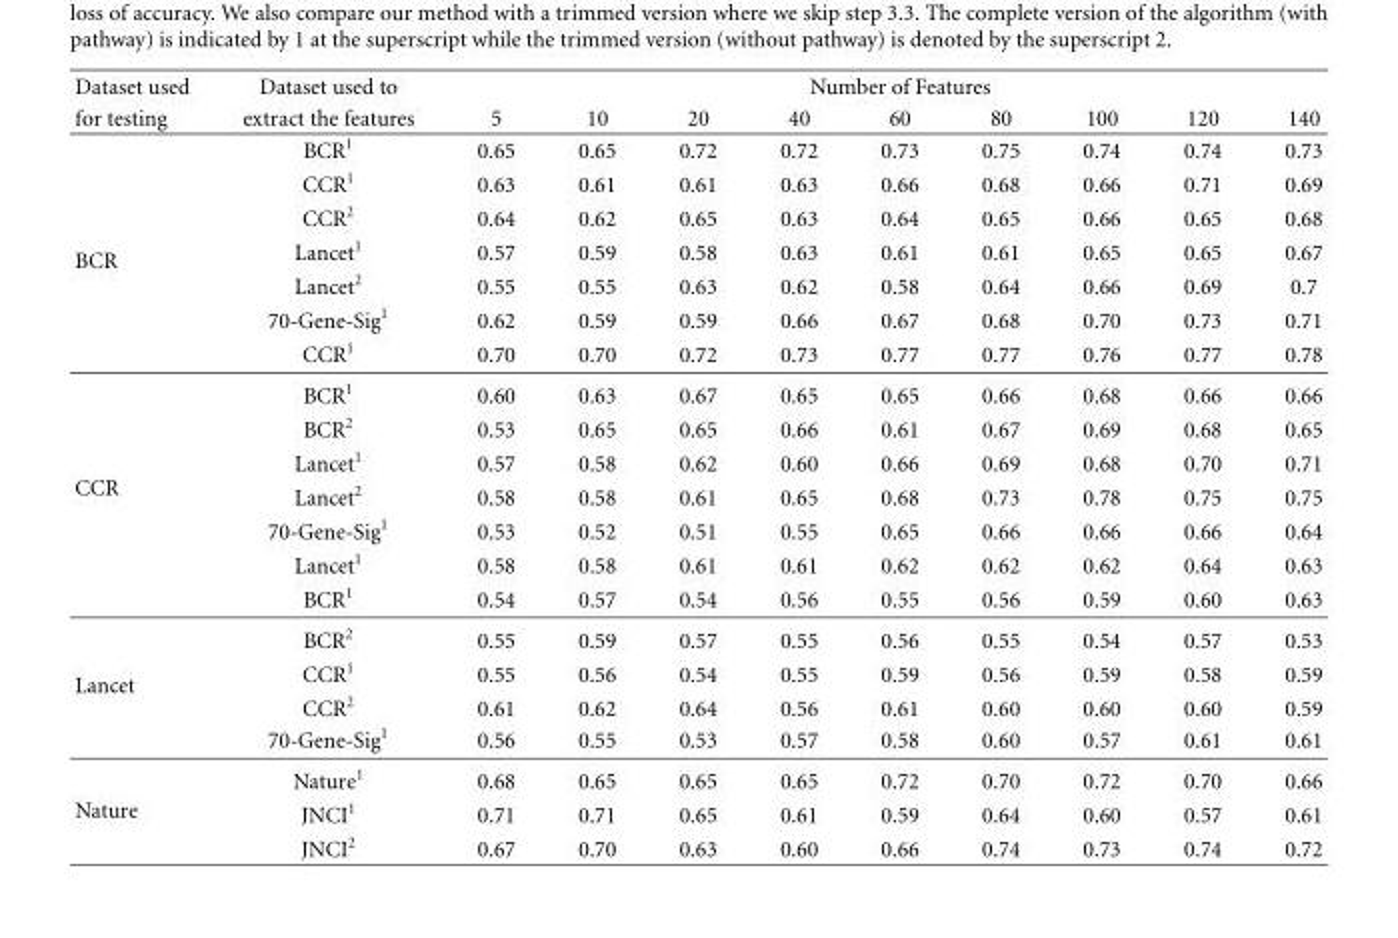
<table><thead><tr><td rowspan="2">Dataset used for testing</td><td rowspan="2">Dataset used to extract the features</td><td colspan="9">Number of Features</td></tr><tr><td>5</td><td>10</td><td>20</td><td>40</td><td>60</td><td>80</td><td>100</td><td>120</td><td>140</td></tr></thead><tbody><tr><td></td><td>BCR<sup>1</sup></td><td>0.65</td><td>0.65</td><td>0.72</td><td>0.72</td><td>0.73</td><td>0.75</td><td>0.74</td><td>0.74</td><td>0.73</td></tr><tr><td rowspan="6">BCR</td><td>CCR<sup>1</sup></td><td>0.63</td><td>0.61</td><td>0.61</td><td>0.63</td><td>0.66</td><td>0.68</td><td>0.66</td><td>0.71</td><td>0.69</td></tr><tr><td>CCR<sup>2</sup></td><td>0.64</td><td>0.62</td><td>0.65</td><td>0.63</td><td>0.64</td><td>0.65</td><td>0.66</td><td>0.65</td><td>0.68</td></tr><tr><td>Lancet<sup>1</sup></td><td>0.57</td><td>0.59</td><td>0.58</td><td>0.63</td><td>0.61</td><td>0.61</td><td>0.65</td><td>0.65</td><td>0.67</td></tr><tr><td>Lancet<sup>2</sup></td><td>0.55</td><td>0.55</td><td>0.63</td><td>0.62</td><td>0.58</td><td>0.64</td><td>0.66</td><td>0.69</td><td>0.7</td></tr><tr><td>70-Gene-Sig<sup>1</sup></td><td>0.62</td><td>0.59</td><td>0.59</td><td>0.66</td><td>0.67</td><td>0.68</td><td>0.70</td><td>0.73</td><td>0.71</td></tr><tr><td>CCR<sup>1</sup></td><td>0.70</td><td>0.70</td><td>0.72</td><td>0.73</td><td>0.77</td><td>0.77</td><td>0.76</td><td>0.77</td><td>0.78</td></tr><tr><td rowspan="7">CCR</td><td>BCR<sup>1</sup></td><td>0.60</td><td>0.63</td><td>0.67</td><td>0.65</td><td>0.65</td><td>0.66</td><td>0.68</td><td>0.66</td><td>0.66</td></tr><tr><td>BCR<sup>2</sup></td><td>0.53</td><td>0.65</td><td>0.65</td><td>0.66</td><td>0.61</td><td>0.67</td><td>0.69</td><td>0.68</td><td>0.65</td></tr><tr><td>Lancet<sup>1</sup></td><td>0.57</td><td>0.58</td><td>0.62</td><td>0.60</td><td>0.66</td><td>0.69</td><td>0.68</td><td>0.70</td><td>0.71</td></tr><tr><td>Lancet<sup>2</sup></td><td>0.58</td><td>0.58</td><td>0.61</td><td>0.65</td><td>0.68</td><td>0.73</td><td>0.78</td><td>0.75</td><td>0.75</td></tr><tr><td>70-Gene-Sig<sup>1</sup></td><td>0.53</td><td>0.52</td><td>0.51</td><td>0.55</td><td>0.65</td><td>0.66</td><td>0.66</td><td>0.66</td><td>0.64</td></tr><tr><td>Lancet<sup>1</sup></td><td>0.58</td><td>0.58</td><td>0.61</td><td>0.61</td><td>0.62</td><td>0.62</td><td>0.62</td><td>0.64</td><td>0.63</td></tr><tr><td>BCR<sup>1</sup></td><td>0.54</td><td>0.57</td><td>0.54</td><td>0.56</td><td>0.55</td><td>0.56</td><td>0.59</td><td>0.60</td><td>0.63</td></tr><tr><td rowspan="4">Lancet</td><td>BCR<sup>2</sup></td><td>0.55</td><td>0.59</td><td>0.57</td><td>0.55</td><td>0.56</td><td>0.55</td><td>0.54</td><td>0.57</td><td>0.53</td></tr><tr><td>CCR<sup>1</sup></td><td>0.55</td><td>0.56</td><td>0.54</td><td>0.55</td><td>0.59</td><td>0.56</td><td>0.59</td><td>0.58</td><td>0.59</td></tr><tr><td>CCR<sup>2</sup></td><td>0.61</td><td>0.62</td><td>0.64</td><td>0.56</td><td>0.61</td><td>0.60</td><td>0.60</td><td>0.60</td><td>0.59</td></tr><tr><td>70-Gene-Sig<sup>1</sup></td><td>0.56</td><td>0.55</td><td>0.53</td><td>0.57</td><td>0.58</td><td>0.60</td><td>0.57</td><td>0.61</td><td>0.61</td></tr><tr><td rowspan="3">Nature</td><td>Nature<sup>1</sup></td><td>0.68</td><td>0.65</td><td>0.65</td><td>0.65</td><td>0.72</td><td>0.70</td><td>0.72</td><td>0.70</td><td>0.66</td></tr><tr><td>JNCI<sup>1</sup></td><td>0.71</td><td>0.71</td><td>0.65</td><td>0.61</td><td>0.59</td><td>0.64</td><td>0.60</td><td>0.57</td><td>0.61</td></tr><tr><td>JNCI<sup>2</sup></td><td>0.67</td><td>0.70</td><td>0.63</td><td>0.60</td><td>0.66</td><td>0.74</td><td>0.73</td><td>0.74</td><td>0.72</td></tr></tbody></table>